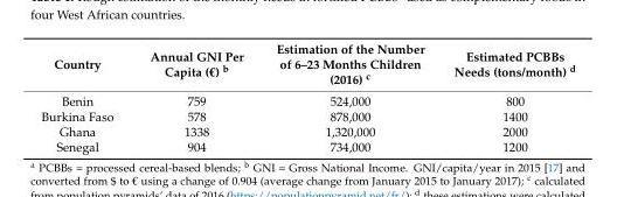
<table><thead><tr><td>Country</td><td>Annual GNI Per Capita (€) <sup>b</sup></td><td>Estimation of the Number of 6–23 Months Children (2016) <sup>c</sup></td><td>Estimated PCBBs Needs (tons/month) <sup>d</sup></td></tr></thead><tbody><tr><td>Benin</td><td>759</td><td>524,000</td><td>800</td></tr><tr><td>Burkina Faso</td><td>578</td><td>878,000</td><td>1400</td></tr><tr><td>Ghana</td><td>1338</td><td>1,320,000</td><td>2000</td></tr><tr><td>Senegal</td><td>904</td><td>734,000</td><td>1200</td></tr></tbody></table>